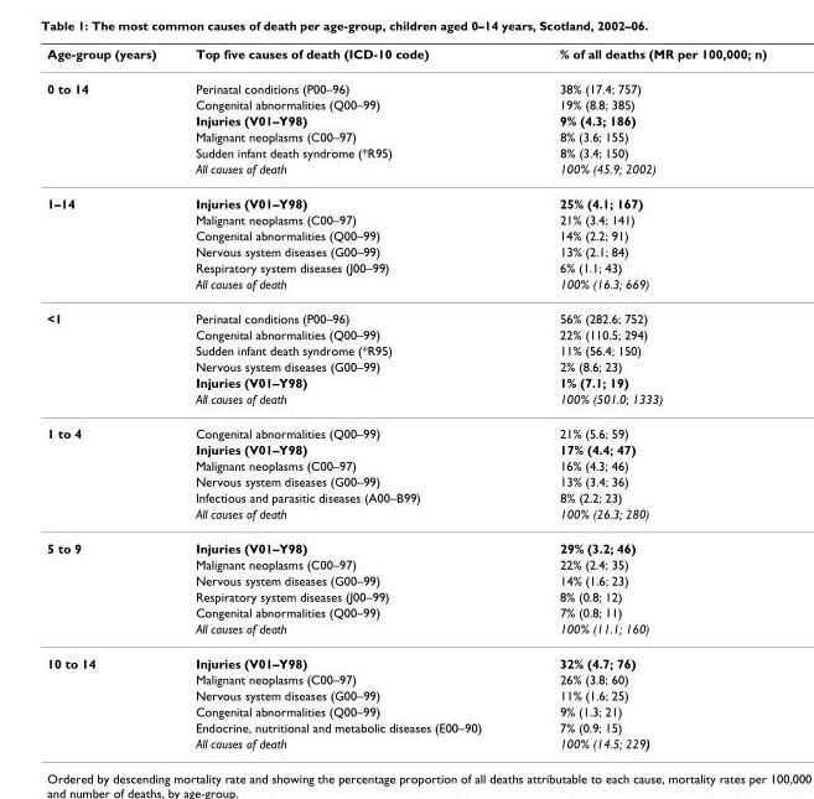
<table><thead><tr><td>Age-group (years)</td><td>Top five causes of death (ICD-10 code)</td><td>% of all deaths (MR per 100,000; n)</td></tr></thead><tbody><tr><td rowspan="6">0 to 14</td><td>Perinatal conditions (P00–96)</td><td>38% (17.4; 757)</td></tr><tr><td>Congenital abnormalities (Q00–99)</td><td>19% (8.8; 385)</td></tr><tr><td>Injuries (V01–Y98)</td><td>9% (4.3; 186)</td></tr><tr><td>Malignant neoplasms (C00–97)</td><td>8% (3.6; 155)</td></tr><tr><td>Sudden infant death syndrome (*R95)</td><td>8% (3.4; 150)</td></tr><tr><td>All causes of death</td><td>100% (45.9; 2002)</td></tr><tr><td rowspan="6">1–14</td><td>Injuries (V01–Y98)</td><td>25% (4.1; 167)</td></tr><tr><td>Malignant neoplasms (C00–97)</td><td>21% (3.4; 141)</td></tr><tr><td>Congenital abnormalities (Q00–99)</td><td>14% (2.2; 91)</td></tr><tr><td>Nervous system diseases (G00–99)</td><td>13% (2.1; 84)</td></tr><tr><td>Respiratory system diseases (J00–99)</td><td>6% (1.1; 43)</td></tr><tr><td>All causes of death</td><td>100% (16.3; 669)</td></tr><tr><td rowspan="6">&lt;1</td><td>Perinatal conditions (P00–96)</td><td>56% (282.6; 752)</td></tr><tr><td>Congenital abnormalities (Q00–99)</td><td>22% (110.5; 294)</td></tr><tr><td>Sudden infant death syndrome (*R95)</td><td>11% (56.4; 150)</td></tr><tr><td>Nervous system diseases (G00–99)</td><td>2% (8.6; 23)</td></tr><tr><td>Injuries (V01–Y98)</td><td>1% (7.1; 19)</td></tr><tr><td>All causes of death</td><td>100% (501.0; 1333)</td></tr><tr><td rowspan="6">1 to 4</td><td>Congenital abnormalities (Q00–99)</td><td>21% (5.6; 59)</td></tr><tr><td>Injuries (V01–Y98)</td><td>17% (4.4; 47)</td></tr><tr><td>Malignant neoplasms (C00–97)</td><td>16% (4.3; 46)</td></tr><tr><td>Nervous system diseases (G00–99)</td><td>13% (3.4; 36)</td></tr><tr><td>Infectious and parasitic diseases (A00–B99)</td><td>8% (2.2; 23)</td></tr><tr><td>All causes of death</td><td>100% (26.3; 280)</td></tr><tr><td rowspan="6">5 to 9</td><td>Injuries (V01–Y98)</td><td>29% (3.2; 46)</td></tr><tr><td>Malignant neoplasms (C00–97)</td><td>22% (2.4; 35)</td></tr><tr><td>Nervous system diseases (G00–99)</td><td>14% (1.6; 23)</td></tr><tr><td>Respiratory system diseases (J00–99)</td><td>8% (0.8; 12)</td></tr><tr><td>Congenital abnormalities (Q00–99)</td><td>7% (0.8; 11)</td></tr><tr><td>All causes of death</td><td>100% (11.1; 160)</td></tr><tr><td rowspan="6">10 to 14</td><td>Injuries (V01–Y98)</td><td>32% (4.7; 76)</td></tr><tr><td>Malignant neoplasms (C00–97)</td><td>26% (3.8; 60)</td></tr><tr><td>Nervous system diseases (G00–99)</td><td>11% (1.6; 25)</td></tr><tr><td>Congenital abnormalities (Q00–99)</td><td>9% (1.3; 21)</td></tr><tr><td>Endocrine, nutritional and metabolic diseases (E00–90)</td><td>7% (0.9; 15)</td></tr><tr><td>All causes of death</td><td>100% (14.5; 229)</td></tr></tbody></table>